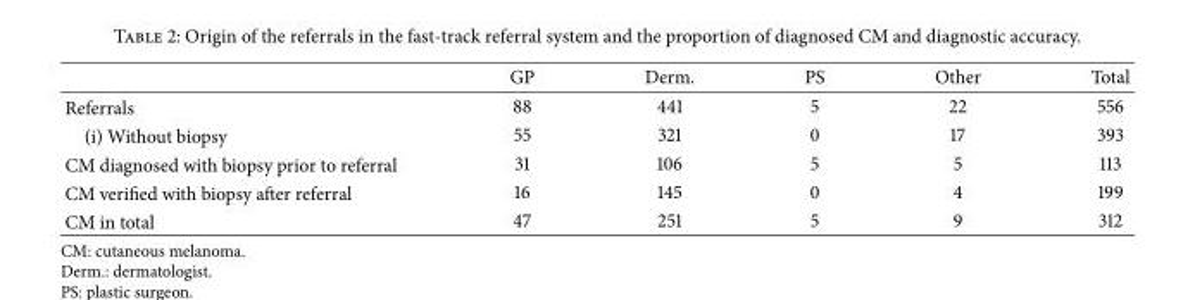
<table><thead><tr><td></td><td>GP</td><td>Derm.</td><td>PS</td><td>Other</td><td>Total</td></tr></thead><tbody><tr><td>Referrals</td><td>88</td><td>441</td><td>5</td><td>22</td><td>556</td></tr><tr><td>(i) Without biopsy</td><td>55</td><td>321</td><td>0</td><td>17</td><td>393</td></tr><tr><td>CM diagnosed with biopsy prior to referral</td><td>31</td><td>106</td><td>5</td><td>5</td><td>113</td></tr><tr><td>CM verified with biopsy after referral</td><td>16</td><td>145</td><td>0</td><td>4</td><td>199</td></tr><tr><td>CM in total</td><td>47</td><td>251</td><td>5</td><td>9</td><td>312</td></tr></tbody></table>